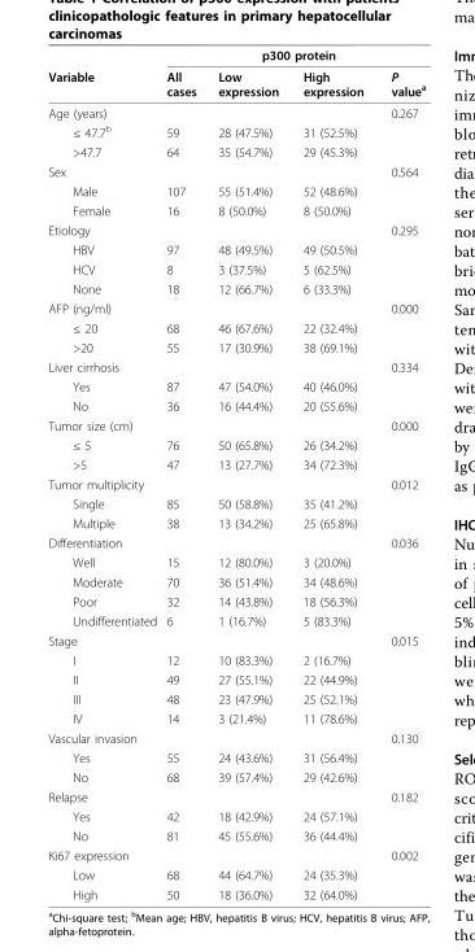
<table><thead><tr><td rowspan="2">Variable</td><td colspan="4">p300 protein</td></tr><tr><td>All cases</td><td>Low expression</td><td>High expression</td><td>P value<sup>a</sup></td></tr></thead><tbody><tr><td>Age (years)</td><td></td><td></td><td></td><td>0.267</td></tr><tr><td>≤ 47.7<sup>b</sup></td><td>59</td><td>28 (47.5%)</td><td>31 (52.5%)</td><td></td></tr><tr><td>&gt;47.7</td><td>64</td><td>35 (54.7%)</td><td>29 (45.3%)</td><td></td></tr><tr><td>Sex</td><td></td><td></td><td></td><td>0.564</td></tr><tr><td>Male</td><td>107</td><td>55 (51.4%)</td><td>52 (48.6%)</td><td></td></tr><tr><td>Female</td><td>16</td><td>8 (50.0%)</td><td>8 (50.0%)</td><td></td></tr><tr><td>Etiology</td><td></td><td></td><td></td><td>0.295</td></tr><tr><td>HBV</td><td>97</td><td>48 (49.5%)</td><td>49 (50.5%)</td><td></td></tr><tr><td>HCV</td><td>8</td><td>3 (37.5%)</td><td>5 (62.5%)</td><td></td></tr><tr><td>None</td><td>18</td><td>12 (66.7%)</td><td>6 (33.3%)</td><td></td></tr><tr><td>AFP (ng/ml)</td><td></td><td></td><td></td><td>0.000</td></tr><tr><td>≤ 20</td><td>68</td><td>46 (67.6%)</td><td>22 (32.4%)</td><td></td></tr><tr><td>&gt;20</td><td>55</td><td>17 (30.9%)</td><td>38 (69.1%)</td><td></td></tr><tr><td>Liver cirrhosis</td><td></td><td></td><td></td><td>0.334</td></tr><tr><td>Yes</td><td>87</td><td>47 (54.0%)</td><td>40 (46.0%)</td><td></td></tr><tr><td>No</td><td>36</td><td>16 (44.4%)</td><td>20 (55.6%)</td><td></td></tr><tr><td>Tumor size (cm)</td><td></td><td></td><td></td><td>0.000</td></tr><tr><td>≤ 5</td><td>76</td><td>50 (65.8%)</td><td>26 (34.2%)</td><td></td></tr><tr><td>&gt;5</td><td>47</td><td>13 (27.7%)</td><td>34 (72.3%)</td><td></td></tr><tr><td>Tumor multiplicity</td><td></td><td></td><td></td><td>0.012</td></tr><tr><td>Single</td><td>85</td><td>50 (58.8%)</td><td>35 (41.2%)</td><td></td></tr><tr><td>Multiple</td><td>38</td><td>13 (34.2%)</td><td>25 (65.8%)</td><td></td></tr><tr><td>Differentiation</td><td></td><td></td><td></td><td>0.036</td></tr><tr><td>Well</td><td>15</td><td>12 (80.0%)</td><td>3 (20.0%)</td><td></td></tr><tr><td>Moderate</td><td>70</td><td>36 (51.4%)</td><td>34 (48.6%)</td><td></td></tr><tr><td>Poor</td><td>32</td><td>14 (43.8%)</td><td>18 (56.3%)</td><td></td></tr><tr><td>Undifferentiated</td><td>6</td><td>1 (16.7%)</td><td>5 (83.3%)</td><td></td></tr><tr><td>Stage</td><td></td><td></td><td></td><td>0.015</td></tr><tr><td>I</td><td>12</td><td>10 (83.3%)</td><td>2 (16.7%)</td><td></td></tr><tr><td>II</td><td>49</td><td>27 (55.1%)</td><td>22 (44.9%)</td><td></td></tr><tr><td>III</td><td>48</td><td>23 (47.9%)</td><td>25 (52.1%)</td><td></td></tr><tr><td>IV</td><td>14</td><td>3 (21.4%)</td><td>11 (78.6%)</td><td></td></tr><tr><td>Vascular invasion</td><td></td><td></td><td></td><td>0.130</td></tr><tr><td>Yes</td><td>55</td><td>24 (43.6%)</td><td>31 (56.4%)</td><td></td></tr><tr><td>No</td><td>68</td><td>39 (57.4%)</td><td>29 (42.6%)</td><td></td></tr><tr><td>Relapse</td><td></td><td></td><td></td><td>0.182</td></tr><tr><td>Yes</td><td>42</td><td>18 (42.9%)</td><td>24 (57.1%)</td><td></td></tr><tr><td>No</td><td>81</td><td>45 (55.6%)</td><td>36 (44.4%)</td><td></td></tr><tr><td>Ki67 expression</td><td></td><td></td><td></td><td>0.002</td></tr><tr><td>Low</td><td>68</td><td>44 (64.7%)</td><td>24 (35.3%)</td><td></td></tr><tr><td>High</td><td>50</td><td>18 (36.0%)</td><td>32 (64.0%)</td><td></td></tr></tbody></table>